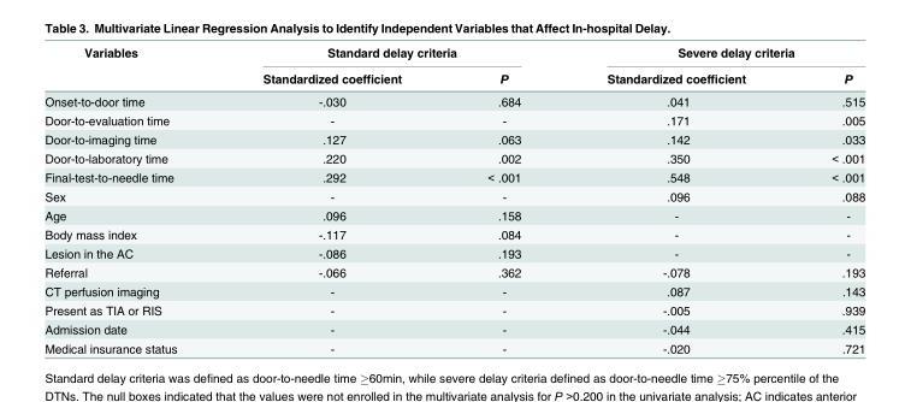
<table><thead><tr><td rowspan="2">Variables</td><td colspan="2">Standard delay criteria</td><td colspan="2">Severe delay criteria</td></tr><tr><td>Standardized coefficient</td><td>P</td><td>Standardized coefficient</td><td>P</td></tr></thead><tbody><tr><td>Onset-to-door time</td><td>-.030</td><td>.684</td><td>.041</td><td>.515</td></tr><tr><td>Door-to-evaluation time</td><td>-</td><td>-</td><td>.171</td><td>.005</td></tr><tr><td>Door-to-imaging time</td><td>.127</td><td>.063</td><td>.142</td><td>.033</td></tr><tr><td>Door-to-laboratory time</td><td>.220</td><td>.002</td><td>.350</td><td>&lt; .001</td></tr><tr><td>Final-test-to-needle time</td><td>.292</td><td>&lt; .001</td><td>.548</td><td>&lt; .001</td></tr><tr><td>Sex</td><td>-</td><td>-</td><td>.096</td><td>.088</td></tr><tr><td>Age</td><td>.096</td><td>.158</td><td>-</td><td>-</td></tr><tr><td>Body mass index</td><td>-.117</td><td>.084</td><td>-</td><td>-</td></tr><tr><td>Lesion in the AC</td><td>-.086</td><td>.193</td><td>-</td><td>-</td></tr><tr><td>Referral</td><td>-.066</td><td>.362</td><td>-.078</td><td>.193</td></tr><tr><td>CT perfusion imaging</td><td>-</td><td>-</td><td>.087</td><td>.143</td></tr><tr><td>Present as TIA or RIS</td><td>-</td><td>-</td><td>-.005</td><td>.939</td></tr><tr><td>Admission date</td><td>-</td><td>-</td><td>-.044</td><td>.415</td></tr><tr><td>Medical insurance status</td><td>-</td><td>-</td><td>-.020</td><td>.721</td></tr></tbody></table>